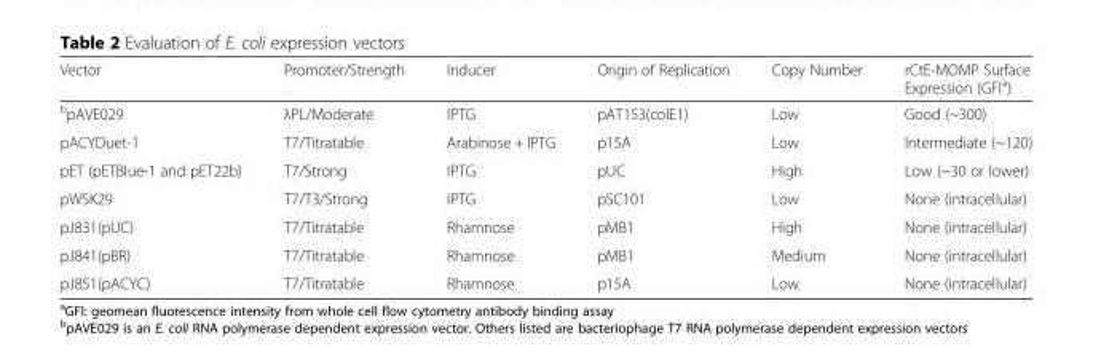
<table><thead><tr><td>Vector</td><td>Promoter/Strength</td><td>Inducer</td><td>Origin of Replication</td><td>Copy Number</td><td>rCtE-MOMP Surface Expression (GFI<sup>a</sup>)</td></tr></thead><tbody><tr><td><sup>b</sup>pAVE029</td><td>λPL/Moderate</td><td>IPTG</td><td>pAT153(colE1)</td><td>Low</td><td>Good (~300)</td></tr><tr><td>pACYDuet-1</td><td>T7/Titratable</td><td>Arabinose + IPTG</td><td>p15A</td><td>Low</td><td>Intermediate (~120)</td></tr><tr><td>pET (pETBlue-1 and pET22b)</td><td>T7/Strong</td><td>IPTG</td><td>pUC</td><td>High</td><td>Low (~30 or lower)</td></tr><tr><td>pWSK29</td><td>T7/T3/Strong</td><td>IPTG</td><td>pSC101</td><td>Low</td><td>None (intracellular)</td></tr><tr><td>pJ831(pUC)</td><td>T7/Titratable</td><td>Rhamnose</td><td>pMB1</td><td>High</td><td>None (intracellular)</td></tr><tr><td>pJ841(pBR)</td><td>T7/Titratable</td><td>Rhamnose</td><td>pMB1</td><td>Medium</td><td>None (intracellular)</td></tr><tr><td>pJ851(pACYC)</td><td>T7/Titratable</td><td>Rhamnose</td><td>p15A</td><td>Low</td><td>None (intracellular)</td></tr></tbody></table>